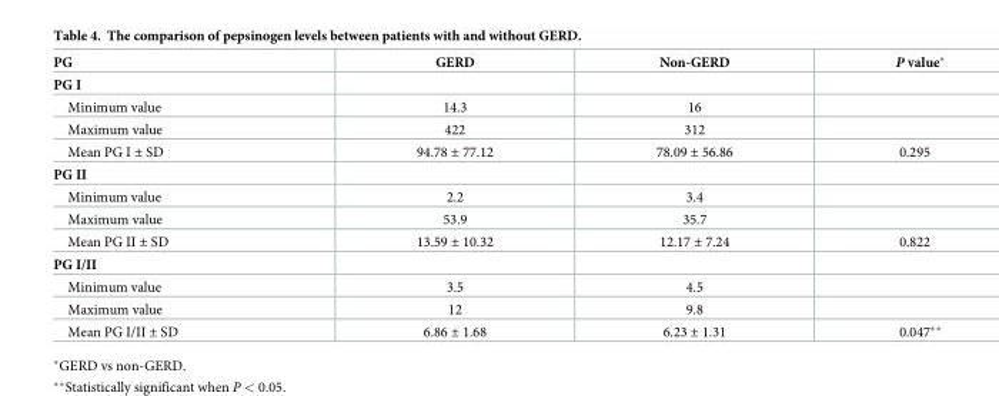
<table><thead><tr><td>PG</td><td>GERD</td><td>Non-GERD</td><td>P value*</td></tr></thead><tbody><tr><td colspan="4">PG I</td></tr><tr><td>Minimum value</td><td>14.3</td><td>16</td><td></td></tr><tr><td>Maximum value</td><td>422</td><td>312</td><td></td></tr><tr><td>Mean PG I ± SD</td><td>94.78 ± 77.12</td><td>78.09 ± 56.86</td><td>0.295</td></tr><tr><td colspan="4">PG II</td></tr><tr><td>Minimum value</td><td>2.2</td><td>3.4</td><td></td></tr><tr><td>Maximum value</td><td>53.9</td><td>35.7</td><td></td></tr><tr><td>Mean PG II ± SD</td><td>13.59 ± 10.32</td><td>12.17 ± 7.24</td><td>0.822</td></tr><tr><td colspan="4">PG I/II</td></tr><tr><td>Minimum value</td><td>3.5</td><td>4.5</td><td></td></tr><tr><td>Maximum value</td><td>12</td><td>9.8</td><td></td></tr><tr><td>Mean PG I/II ± SD</td><td>6.86 ± 1.68</td><td>6.23 ± 1.31</td><td>0.047**</td></tr></tbody></table>